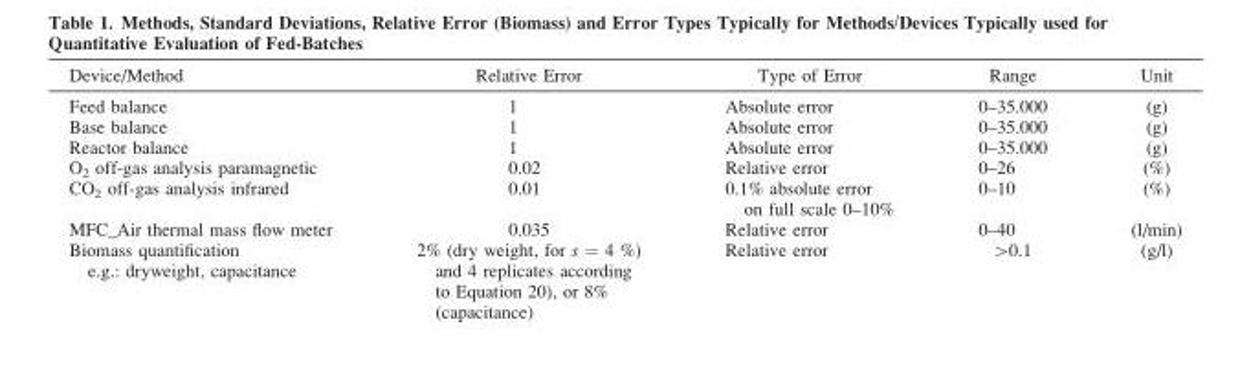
<table><thead><tr><td>Device/Method</td><td>Relative Error</td><td>Type of Error</td><td>Range</td><td>Unit</td></tr></thead><tbody><tr><td>Feed balance</td><td>1</td><td>Absolute error</td><td>0–35.000</td><td>(g)</td></tr><tr><td>Base balance</td><td>1</td><td>Absolute error</td><td>0–35.000</td><td>(g)</td></tr><tr><td>Reactor balance</td><td>1</td><td>Absolute error</td><td>0–35.000</td><td>(g)</td></tr><tr><td>O<sub>2</sub> off-gas analysis paramagnetic</td><td>0.02</td><td>Relative error</td><td>0–26</td><td>(%)</td></tr><tr><td>CO<sub>2</sub> off-gas analysis infrared</td><td>0.01</td><td>0.1% absolute error on full scale 0–10%</td><td>0–10</td><td>(%)</td></tr><tr><td>MFC_Air thermal mass flow meter</td><td>0.035</td><td>Relative error</td><td>0–40</td><td>(l/min)</td></tr><tr><td>Biomass quantification e.g.: dryweight, capacitance</td><td>2% (dry weight, for s = 4 %) and 4 replicates according to Equation 20), or 8% (capacitance)</td><td>Relative error</td><td>&gt;0.1</td><td>(g/l)</td></tr></tbody></table>